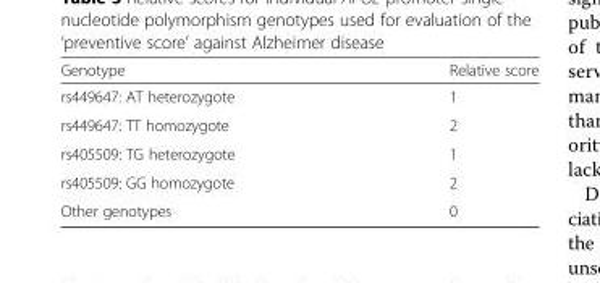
<table><thead><tr><td>Genotype</td><td>Relative score</td></tr></thead><tbody><tr><td>rs449647: AT heterozygote</td><td>1</td></tr><tr><td>rs449647: TT homozygote</td><td>2</td></tr><tr><td>rs405509: TG heterozygote</td><td>1</td></tr><tr><td>rs405509: GG homozygote</td><td>2</td></tr><tr><td>Other genotypes</td><td>0</td></tr></tbody></table>